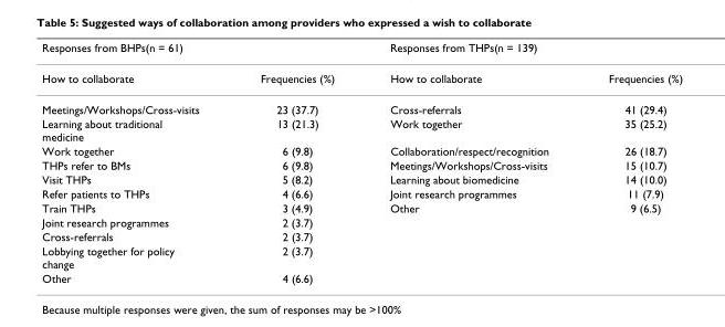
<table><thead><tr><td colspan="2">Responses from BHPs(n = 61)</td><td colspan="2">Responses from THPs(n = 139)</td></tr><tr><td>How to collaborate</td><td>Frequencies (%)</td><td>How to collaborate</td><td>Frequencies (%)</td></tr></thead><tbody><tr><td>Meetings/Workshops/Cross-visits</td><td>23 (37.7)</td><td>Cross-referrals</td><td>41 (29.4)</td></tr><tr><td>Learning about traditional medicine</td><td>13 (21.3)</td><td>Work together</td><td>35 (25.2)</td></tr><tr><td>Work together</td><td>6 (9.8)</td><td>Collaboration/respect/recognition</td><td>26 (18.7)</td></tr><tr><td>THPs refer to BMs</td><td>6 (9.8)</td><td>Meetings/Workshops/Cross-visits</td><td>15 (10.7)</td></tr><tr><td>Visit THPs</td><td>5 (8.2)</td><td>Learning about biomedicine</td><td>14 (10.0)</td></tr><tr><td>Refer patients to THPs</td><td>4 (6.6)</td><td>Joint research programmes</td><td>11 (7.9)</td></tr><tr><td>Train THPs</td><td>3 (4.9)</td><td>Other</td><td>9 (6.5)</td></tr><tr><td>Joint research programmes</td><td>2 (3.7)</td><td></td><td></td></tr><tr><td>Cross-referrals</td><td>2 (3.7)</td><td></td><td></td></tr><tr><td>Lobbying together for policy change</td><td>2 (3.7)</td><td></td><td></td></tr><tr><td>Other</td><td>4 (6.6)</td><td></td><td></td></tr></tbody></table>